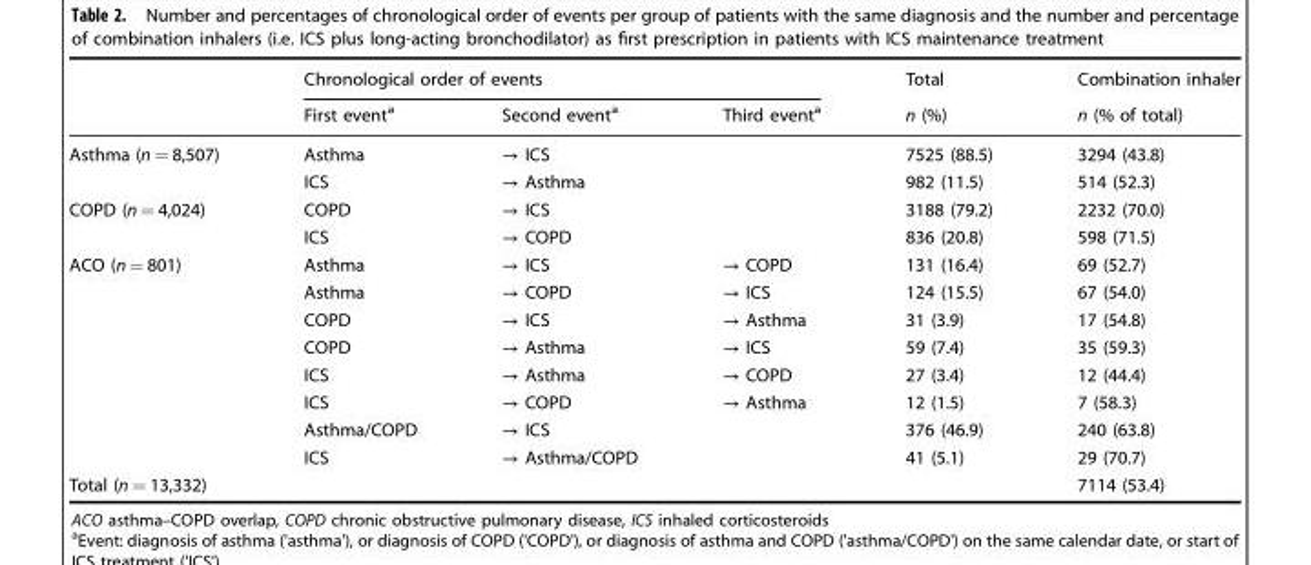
<table><thead><tr><td rowspan="2"></td><td colspan="3">Chronological order of events</td><td rowspan="2">Total n (%)</td><td rowspan="2">Combination inhaler n (% of total)</td></tr><tr><td>First event<sup>a</sup></td><td>Second event<sup>a</sup></td><td>Third event<sup>a</sup></td></tr></thead><tbody><tr><td rowspan="2">Asthma (n = 8,507)</td><td>Asthma</td><td>→ ICS</td><td></td><td>7525 (88.5)</td><td>3294 (43.8)</td></tr><tr><td>ICS</td><td>→ Asthma</td><td></td><td>982 (11.5)</td><td>514 (52.3)</td></tr><tr><td rowspan="2">COPD (n = 4,024)</td><td>COPD</td><td>→ ICS</td><td></td><td>3188 (79.2)</td><td>2232 (70.0)</td></tr><tr><td>ICS</td><td>→ COPD</td><td></td><td>836 (20.8)</td><td>598 (71.5)</td></tr><tr><td rowspan="8">ACO (n = 801)</td><td>Asthma</td><td>→ ICS</td><td>→ COPD</td><td>131 (16.4)</td><td>69 (52.7)</td></tr><tr><td>Asthma</td><td>→ COPD</td><td>→ ICS</td><td>124 (15.5)</td><td>67 (54.0)</td></tr><tr><td>COPD</td><td>→ ICS</td><td>→ Asthma</td><td>31 (3.9)</td><td>17 (54.8)</td></tr><tr><td>COPD</td><td>→ Asthma</td><td>→ ICS</td><td>59 (7.4)</td><td>35 (59.3)</td></tr><tr><td>ICS</td><td>→ Asthma</td><td>→ COPD</td><td>27 (3.4)</td><td>12 (44.4)</td></tr><tr><td>ICS</td><td>→ COPD</td><td>→ Asthma</td><td>12 (1.5)</td><td>7 (58.3)</td></tr><tr><td>Asthma/COPD</td><td>→ ICS</td><td></td><td>376 (46.9)</td><td>240 (63.8)</td></tr><tr><td>ICS</td><td>→ Asthma/COPD</td><td></td><td>41 (5.1)</td><td>29 (70.7)</td></tr><tr><td>Total (n = 13,332)</td><td></td><td></td><td></td><td></td><td>7114 (53.4)</td></tr></tbody></table>